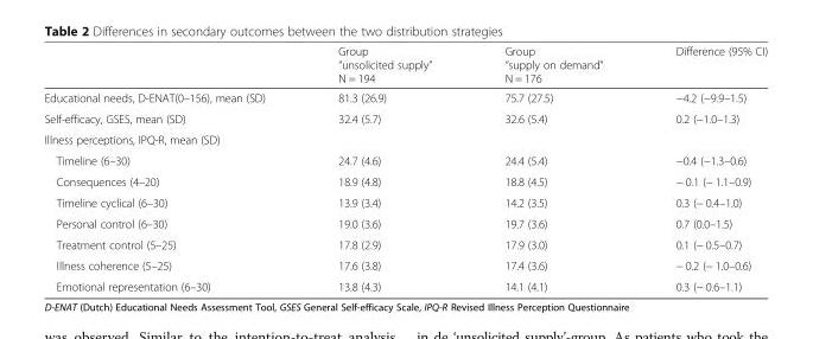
<table><thead><tr><td></td><td>Group “unsolicited supply” N = 194</td><td>Group “supply on demand” N = 176</td><td>Difference (95% CI)</td></tr></thead><tbody><tr><td>Educational needs, D-ENAT(0–156), mean (SD)</td><td>81.3 (26.9)</td><td>75.7 (27.5)</td><td>−4.2 (−9.9–1.5)</td></tr><tr><td>Self-efficacy, GSES, mean (SD)</td><td>32.4 (5.7)</td><td>32.6 (5.4)</td><td>0.2 (−1.0–1.3)</td></tr><tr><td colspan="4">Illness perceptions, IPQ-R, mean (SD)</td></tr><tr><td>Timeline (6–30)</td><td>24.7 (4.6)</td><td>24.4 (5.4)</td><td>−0.4 (−1.3–0.6)</td></tr><tr><td>Consequences (4–20)</td><td>18.9 (4.8)</td><td>18.8 (4.5)</td><td>− 0.1 (− 1.1–0.9)</td></tr><tr><td>Timeline cyclical (6–30)</td><td>13.9 (3.4)</td><td>14.2 (3.5)</td><td>0.3 (− 0.4–1.0)</td></tr><tr><td>Personal control (6–30)</td><td>19.0 (3.6)</td><td>19.7 (3.6)</td><td>0.7 (0.0–1.5)</td></tr><tr><td>Treatment control (5–25)</td><td>17.8 (2.9)</td><td>17.9 (3.0)</td><td>0.1 (− 0.5–0.7)</td></tr><tr><td>Illness coherence (5–25)</td><td>17.6 (3.8)</td><td>17.4 (3.6)</td><td>− 0.2 (− 1.0–0.6)</td></tr><tr><td>Emotional representation (6–30)</td><td>13.8 (4.3)</td><td>14.1 (4.1)</td><td>0.3 (− 0.6–1.1)</td></tr></tbody></table>